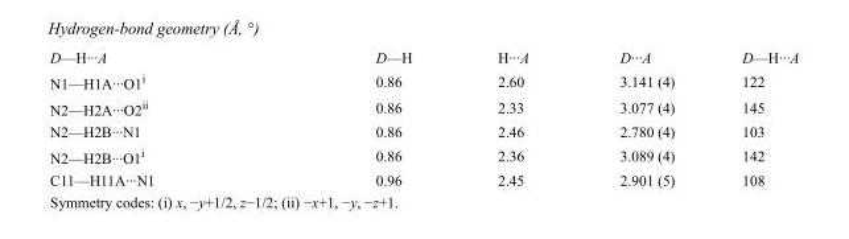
<table><tbody><tr><td>D—H···A</td><td>D—H</td><td>H···A</td><td>D···A</td><td>D—H···A</td></tr><tr><td>N1—H1A···O1<sup>i</sup></td><td>0.86</td><td>2.60</td><td>3.141 (4)</td><td>122</td></tr><tr><td>N2—H2A···O2<sup>ii</sup></td><td>0.86</td><td>2.33</td><td>3.077 (4)</td><td>145</td></tr><tr><td>N2—H2B···N1</td><td>0.86</td><td>2.46</td><td>2.780 (4)</td><td>103</td></tr><tr><td>N2—H2B···O1<sup>i</sup></td><td>0.86</td><td>2.36</td><td>3.089 (4)</td><td>142</td></tr><tr><td>C11—H11A···N1</td><td>0.96</td><td>2.45</td><td>2.901 (5)</td><td>108</td></tr></tbody></table>